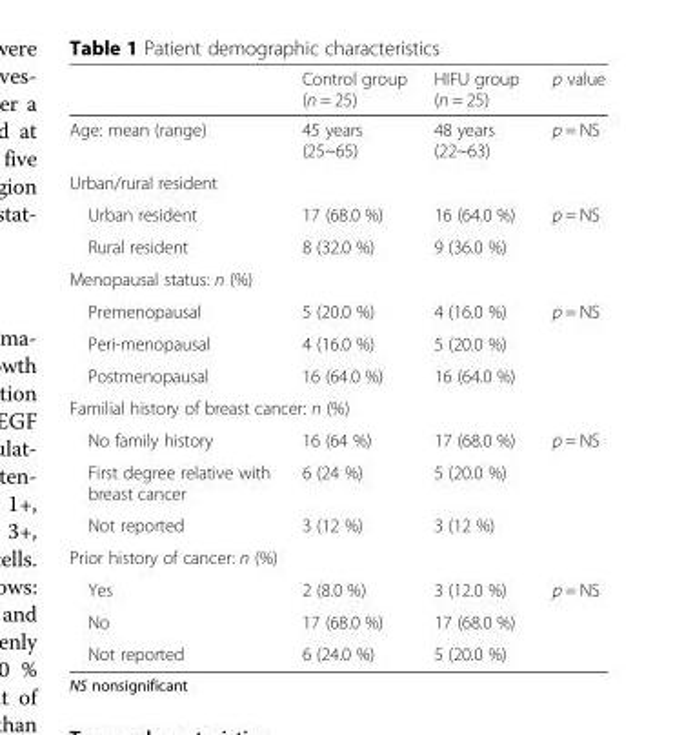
<table><thead><tr><td></td><td>Control group (n = 25)</td><td>HIFU group (n = 25)</td><td>p value</td></tr></thead><tbody><tr><td>Age: mean (range)</td><td>45 years (25~65)</td><td>48 years (22~63)</td><td>p = NS</td></tr><tr><td colspan="4">Urban/rural resident</td></tr><tr><td>Urban resident</td><td>17 (68.0 %)</td><td>16 (64.0 %)</td><td>p = NS</td></tr><tr><td>Rural resident</td><td>8 (32.0 %)</td><td>9 (36.0 %)</td><td></td></tr><tr><td colspan="4">Menopausal status: n (%)</td></tr><tr><td>Premenopausal</td><td>5 (20.0 %)</td><td>4 (16.0 %)</td><td>p = NS</td></tr><tr><td>Peri-menopausal</td><td>4 (16.0 %)</td><td>5 (20.0 %)</td><td></td></tr><tr><td>Postmenopausal</td><td>16 (64.0 %)</td><td>16 (64.0 %)</td><td></td></tr><tr><td colspan="4">Familial history of breast cancer: n (%)</td></tr><tr><td>No family history</td><td>16 (64 %)</td><td>17 (68.0 %)</td><td>p = NS</td></tr><tr><td>First degree relative with breast cancer</td><td>6 (24 %)</td><td>5 (20.0 %)</td><td></td></tr><tr><td>Not reported</td><td>3 (12 %)</td><td>3 (12 %)</td><td></td></tr><tr><td colspan="4">Prior history of cancer: n (%)</td></tr><tr><td>Yes</td><td>2 (8.0 %)</td><td>3 (12.0 %)</td><td>p = NS</td></tr><tr><td>No</td><td>17 (68.0 %)</td><td>17 (68.0 %)</td><td></td></tr><tr><td>Not reported</td><td>6 (24.0 %)</td><td>5 (20.0 %)</td><td></td></tr></tbody></table>